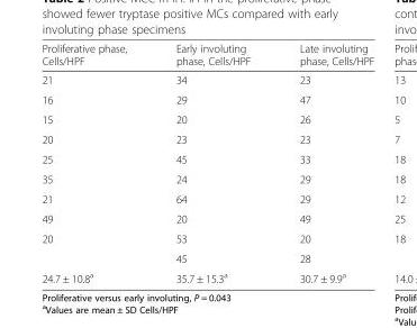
<table><thead><tr><td>Proliferative phase, Cells/HPF</td><td>Early involuting phase, Cells/HPF</td><td>Late involuting phase, Cells/HPF</td></tr></thead><tbody><tr><td>21</td><td>34</td><td>23</td></tr><tr><td>16</td><td>29</td><td>47</td></tr><tr><td>15</td><td>20</td><td>26</td></tr><tr><td>20</td><td>23</td><td>23</td></tr><tr><td>25</td><td>45</td><td>33</td></tr><tr><td>35</td><td>24</td><td>29</td></tr><tr><td>21</td><td>64</td><td>29</td></tr><tr><td>49</td><td>20</td><td>49</td></tr><tr><td rowspan="2">20</td><td>53</td><td>20</td></tr><tr><td>45</td><td>28</td></tr><tr><td>24.7 ± 10.8<sup>a</sup></td><td>35.7 ± 15.3<sup>a</sup></td><td>30.7 ± 9.9<sup>a</sup></td></tr></tbody></table>